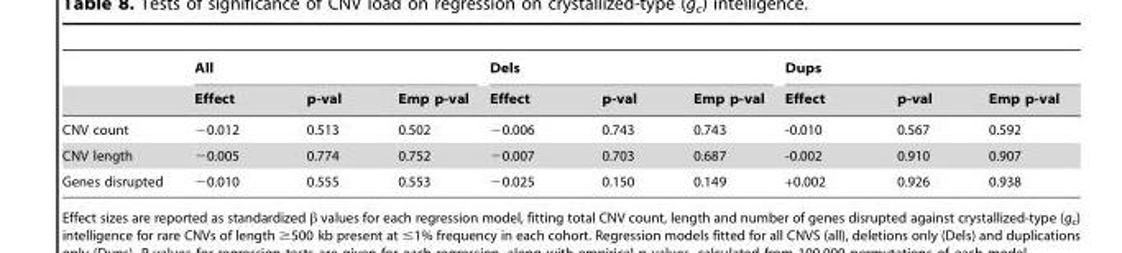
<table><thead><tr><td rowspan="2"></td><td colspan="3">All</td><td colspan="3">Dels</td><td colspan="3">Dups</td></tr><tr><td>Effect</td><td>p-val</td><td>Emp p-val</td><td>Effect</td><td>p-val</td><td>Emp p-val</td><td>Effect</td><td>p-val</td><td>Emp p-val</td></tr></thead><tbody><tr><td>CNV count</td><td>−0.012</td><td>0.513</td><td>0.502</td><td>−0.006</td><td>0.743</td><td>0.743</td><td>-0.010</td><td>0.567</td><td>0.592</td></tr><tr><td>CNV length</td><td>−0.005</td><td>0.774</td><td>0.752</td><td>−0.007</td><td>0.703</td><td>0.687</td><td>-0.002</td><td>0.910</td><td>0.907</td></tr><tr><td>Genes disrupted</td><td>−0.010</td><td>0.555</td><td>0.553</td><td>−0.025</td><td>0.150</td><td>0.149</td><td>+0.002</td><td>0.926</td><td>0.938</td></tr></tbody></table>